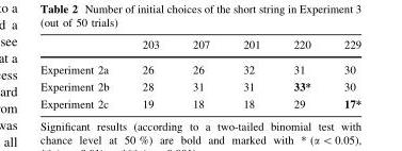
<table><thead><tr><td></td><td>203</td><td>207</td><td>201</td><td>220</td><td>229</td></tr></thead><tbody><tr><td>Experiment 2a</td><td>26</td><td>26</td><td>32</td><td>31</td><td>30</td></tr><tr><td>Experiment 2b</td><td>28</td><td>31</td><td>31</td><td>33*</td><td>30</td></tr><tr><td>Experiment 2c</td><td>19</td><td>18</td><td>18</td><td>29</td><td>17*</td></tr></tbody></table>